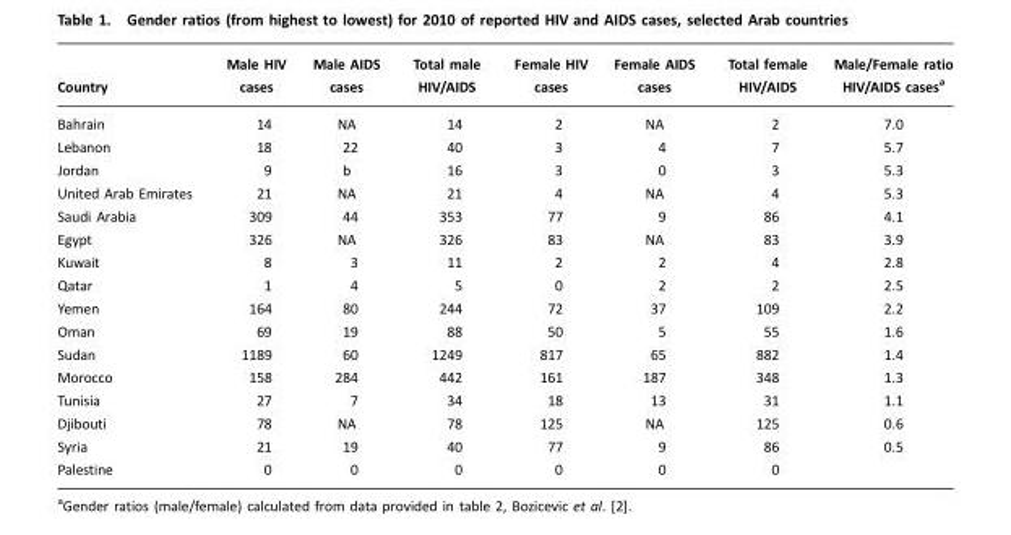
<table><thead><tr><td>Country</td><td>Male HIV cases</td><td>Male AIDS cases</td><td>Total male HIV/AIDS</td><td>Female HIV cases</td><td>Female AIDS cases</td><td>Total female HIV/AIDS</td><td>Male/Female ratio HIV/AIDS cases<sup>a</sup></td></tr></thead><tbody><tr><td>Bahrain</td><td>14</td><td>NA</td><td>14</td><td>2</td><td>NA</td><td>2</td><td>7.0</td></tr><tr><td>Lebanon</td><td>18</td><td>22</td><td>40</td><td>3</td><td>4</td><td>7</td><td>5.7</td></tr><tr><td>Jordan</td><td>9</td><td>b</td><td>16</td><td>3</td><td>0</td><td>3</td><td>5.3</td></tr><tr><td>United Arab Emirates</td><td>21</td><td>NA</td><td>21</td><td>4</td><td>NA</td><td>4</td><td>5.3</td></tr><tr><td>Saudi Arabia</td><td>309</td><td>44</td><td>353</td><td>77</td><td>9</td><td>86</td><td>4.1</td></tr><tr><td>Egypt</td><td>326</td><td>NA</td><td>326</td><td>83</td><td>NA</td><td>83</td><td>3.9</td></tr><tr><td>Kuwait</td><td>8</td><td>3</td><td>11</td><td>2</td><td>2</td><td>4</td><td>2.8</td></tr><tr><td>Qatar</td><td>1</td><td>4</td><td>5</td><td>0</td><td>2</td><td>2</td><td>2.5</td></tr><tr><td>Yemen</td><td>164</td><td>80</td><td>244</td><td>72</td><td>37</td><td>109</td><td>2.2</td></tr><tr><td>Oman</td><td>69</td><td>19</td><td>88</td><td>50</td><td>5</td><td>55</td><td>1.6</td></tr><tr><td>Sudan</td><td>1189</td><td>60</td><td>1249</td><td>817</td><td>65</td><td>882</td><td>1.4</td></tr><tr><td>Morocco</td><td>158</td><td>284</td><td>442</td><td>161</td><td>187</td><td>348</td><td>1.3</td></tr><tr><td>Tunisia</td><td>27</td><td>7</td><td>34</td><td>18</td><td>13</td><td>31</td><td>1.1</td></tr><tr><td>Djibouti</td><td>78</td><td>NA</td><td>78</td><td>125</td><td>NA</td><td>125</td><td>0.6</td></tr><tr><td>Syria</td><td>21</td><td>19</td><td>40</td><td>77</td><td>9</td><td>86</td><td>0.5</td></tr><tr><td>Palestine</td><td>0</td><td>0</td><td>0</td><td>0</td><td>0</td><td>0</td><td></td></tr></tbody></table>